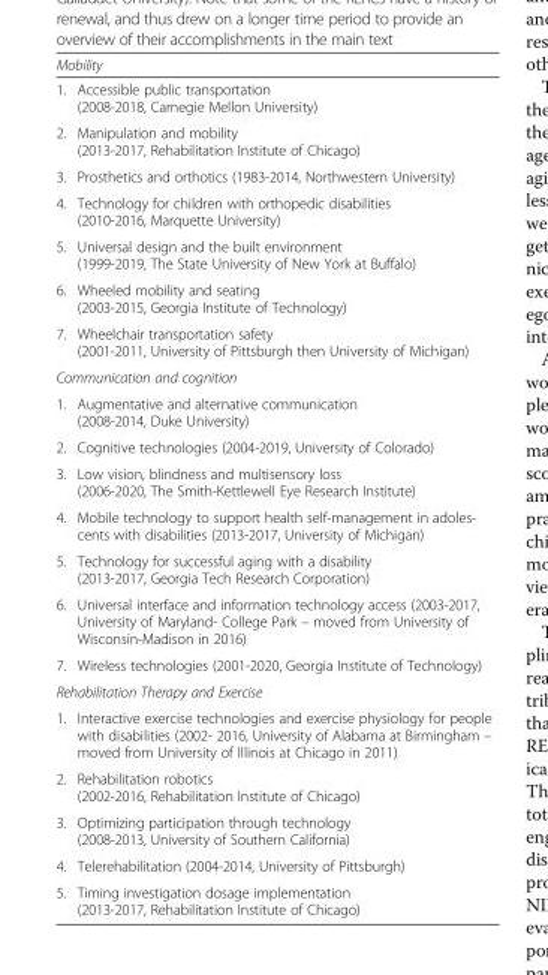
<table><thead><tr><td colspan="2">Mobility</td></tr><tr><td>1.</td><td>Accessible public transportation (2008-2018, Carnegie Mellon University)</td></tr></thead><tbody><tr><td>2.</td><td>Manipulation and mobility (2013-2017, Rehabilitation Institute of Chicago)</td></tr><tr><td>3.</td><td>Prosthetics and orthotics (1983-2014, Northwestern University)</td></tr><tr><td>4.</td><td>Technology for children with orthopedic disabilities (2010-2016, Marquette University)</td></tr><tr><td>5.</td><td>Universal design and the built environment (1999-2019, The State University of New York at Buffalo)</td></tr><tr><td>6.</td><td>Wheeled mobility and seating (2003-2015, Georgia Institute of Technology)</td></tr><tr><td>7.</td><td>Wheelchair transportation safety (2001-2011, University of Pittsburgh then University of Michigan)</td></tr><tr><td colspan="2">Communication and cognition</td></tr><tr><td>1.</td><td>Augmentative and alternative communication (2008-2014, Duke University)</td></tr><tr><td>2.</td><td>Cognitive technologies (2004-2019, University of Colorado)</td></tr><tr><td>3.</td><td>Low vision, blindness and multisensory loss (2006-2020, The Smith-Kettlewell Eye Research Institute)</td></tr><tr><td>4.</td><td>Mobile technology to support health self-management in adoles- cents with disabilities (2013-2017, University of Michigan)</td></tr><tr><td>5.</td><td>Technology for successful aging with a disability (2013-2017, Georgia Tech Research Corporation)</td></tr><tr><td>6.</td><td>Universal interface and information technology access (2003-2017, University of Maryland- College Park – moved from University of Wisconsin-Madison in 2016)</td></tr><tr><td>7.</td><td>Wireless technologies (2001-2020, Georgia Institute of Technology)</td></tr><tr><td colspan="2">Rehabilitation Therapy and Exercise</td></tr><tr><td>1.</td><td>Interactive exercise technologies and exercise physiology for people with disabilities (2002- 2016, University of Alabama at Birmingham – moved from University of Illinois at Chicago in 2011)</td></tr><tr><td>2.</td><td>Rehabilitation robotics (2002-2016, Rehabilitation Institute of Chicago)</td></tr><tr><td>3.</td><td>Optimizing participation through technology (2008-2013, University of Southern California)</td></tr><tr><td>4.</td><td>Telerehabilitation (2004-2014, University of Pittsburgh)</td></tr><tr><td>5.</td><td>Timing investigation dosage implementation (2013-2017, Rehabilitation Institute of Chicago)</td></tr></tbody></table>